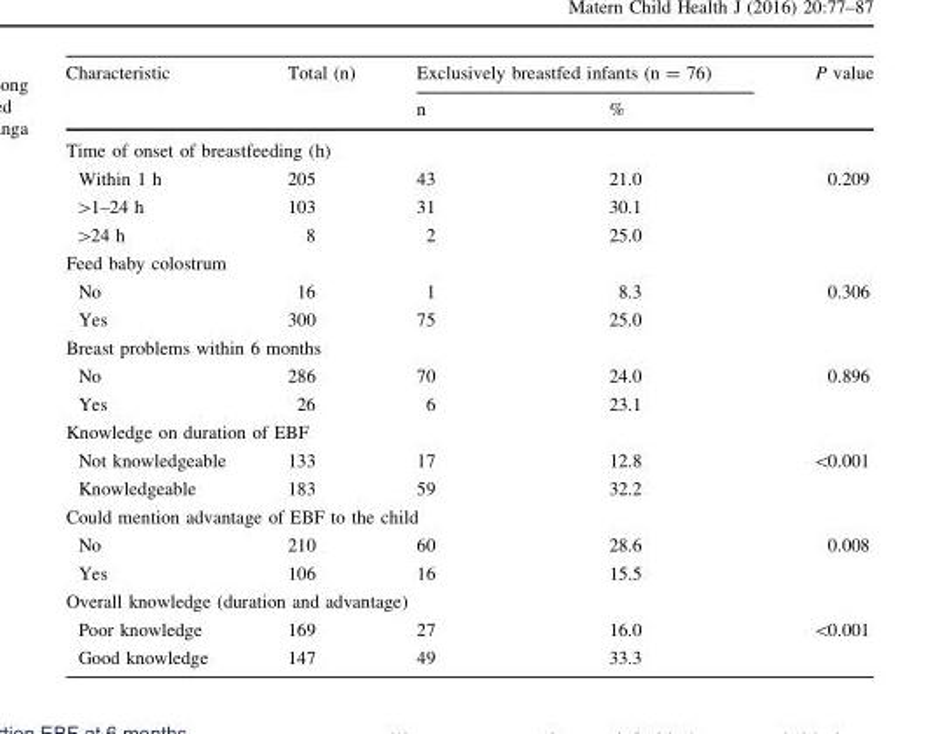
<table><thead><tr><td rowspan="2">Characteristic</td><td rowspan="2">Total (n)</td><td colspan="2">Exclusively breastfed infants (n = 76)</td><td rowspan="2">P value</td></tr><tr><td>n</td><td>%</td></tr></thead><tbody><tr><td colspan="5">Time of onset of breastfeeding (h)</td></tr><tr><td>Within 1 h</td><td>205</td><td>43</td><td>21.0</td><td rowspan="3">0.209</td></tr><tr><td>&gt;1–24 h</td><td>103</td><td>31</td><td>30.1</td></tr><tr><td>&gt;24 h</td><td>8</td><td>2</td><td>25.0</td></tr><tr><td colspan="5">Feed baby colostrum</td></tr><tr><td>No</td><td>16</td><td>1</td><td>8.3</td><td rowspan="2">0.306</td></tr><tr><td>Yes</td><td>300</td><td>75</td><td>25.0</td></tr><tr><td colspan="5">Breast problems within 6 months</td></tr><tr><td>No</td><td>286</td><td>70</td><td>24.0</td><td rowspan="2">0.896</td></tr><tr><td>Yes</td><td>26</td><td>6</td><td>23.1</td></tr><tr><td colspan="5">Knowledge on duration of EBF</td></tr><tr><td>Not knowledgeable</td><td>133</td><td>17</td><td>12.8</td><td rowspan="2">&lt;0.001</td></tr><tr><td>Knowledgeable</td><td>183</td><td>59</td><td>32.2</td></tr><tr><td colspan="5">Could mention advantage of EBF to the child</td></tr><tr><td>No</td><td>210</td><td>60</td><td>28.6</td><td rowspan="2">0.008</td></tr><tr><td>Yes</td><td>106</td><td>16</td><td>15.5</td></tr><tr><td colspan="5">Overall knowledge (duration and advantage)</td></tr><tr><td>Poor knowledge</td><td>169</td><td>27</td><td>16.0</td><td rowspan="2">&lt;0.001</td></tr><tr><td>Good knowledge</td><td>147</td><td>49</td><td>33.3</td></tr></tbody></table>